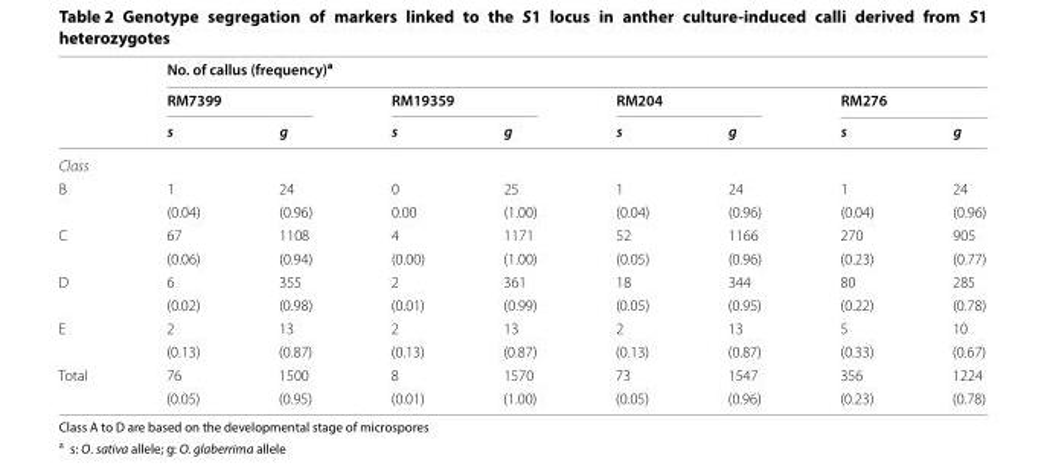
<table><thead><tr><td rowspan="3"></td><td colspan="8">No. of callus (frequency)<sup>a</sup></td></tr><tr><td colspan="2">RM7399</td><td colspan="2">RM19359</td><td colspan="2">RM204</td><td colspan="2">RM276</td></tr><tr><td>s</td><td>g</td><td>s</td><td>g</td><td>s</td><td>g</td><td>s</td><td>g</td></tr></thead><tbody><tr><td colspan="9">Class</td></tr><tr><td rowspan="2">B</td><td>1</td><td>24</td><td>0</td><td>25</td><td>1</td><td>24</td><td>1</td><td>24</td></tr><tr><td>(0.04)</td><td>(0.96)</td><td>0.00</td><td>(1.00)</td><td>(0.04)</td><td>(0.96)</td><td>(0.04)</td><td>(0.96)</td></tr><tr><td rowspan="2">C</td><td>67</td><td>1108</td><td>4</td><td>1171</td><td>52</td><td>1166</td><td>270</td><td>905</td></tr><tr><td>(0.06)</td><td>(0.94)</td><td>(0.00)</td><td>(1.00)</td><td>(0.05)</td><td>(0.96)</td><td>(0.23)</td><td>(0.77)</td></tr><tr><td rowspan="2">D</td><td>6</td><td>355</td><td>2</td><td>361</td><td>18</td><td>344</td><td>80</td><td>285</td></tr><tr><td>(0.02)</td><td>(0.98)</td><td>(0.01)</td><td>(0.99)</td><td>(0.05)</td><td>(0.95)</td><td>(0.22)</td><td>(0.78)</td></tr><tr><td rowspan="2">E</td><td>2</td><td>13</td><td>2</td><td>13</td><td>2</td><td>13</td><td>5</td><td>10</td></tr><tr><td>(0.13)</td><td>(0.87)</td><td>(0.13)</td><td>(0.87)</td><td>(0.13)</td><td>(0.87)</td><td>(0.33)</td><td>(0.67)</td></tr><tr><td rowspan="2">Total</td><td>76</td><td>1500</td><td>8</td><td>1570</td><td>73</td><td>1547</td><td>356</td><td>1224</td></tr><tr><td>(0.05)</td><td>(0.95)</td><td>(0.01)</td><td>(1.00)</td><td>(0.05)</td><td>(0.96)</td><td>(0.23)</td><td>(0.78)</td></tr></tbody></table>